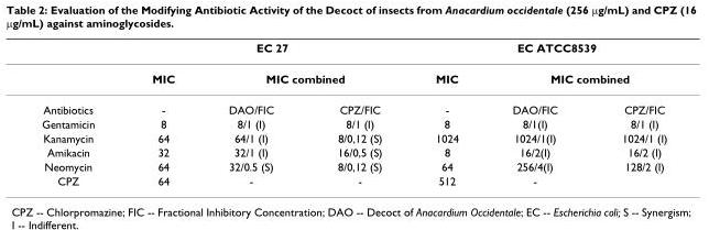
<table><thead><tr><td rowspan="3">Antibiotics</td><td colspan="3">EC 27</td><td colspan="3">EC ATCC8539</td></tr><tr><td rowspan="2">MIC -</td><td colspan="2">MIC combined</td><td rowspan="2">MIC -</td><td colspan="2">MIC combined</td></tr><tr><td>DAO/FIC</td><td>CPZ/FIC</td><td>DAO/FIC</td><td>CPZ/FIC</td></tr></thead><tbody><tr><td>Gentamicin</td><td>8</td><td>8/1 (I)</td><td>8/1 (I)</td><td>8</td><td>8/1(I)</td><td>8/1 (I)</td></tr><tr><td>Kanamycin</td><td>64</td><td>64/1 (I)</td><td>8/0,12 (S)</td><td>1024</td><td>1024/1(I)</td><td>1024/1 (I)</td></tr><tr><td>Amikacin</td><td>32</td><td>32/1 (I)</td><td>16/0,5 (S)</td><td>8</td><td>16/2(I)</td><td>16/2 (I)</td></tr><tr><td>Neomycin</td><td>64</td><td>32/0.5 (S)</td><td>8/0,12 (S)</td><td>64</td><td>256/4(I)</td><td>128/2 (I)</td></tr><tr><td>CPZ</td><td>64</td><td>-</td><td>-</td><td>512</td><td>-</td><td></td></tr></tbody></table>